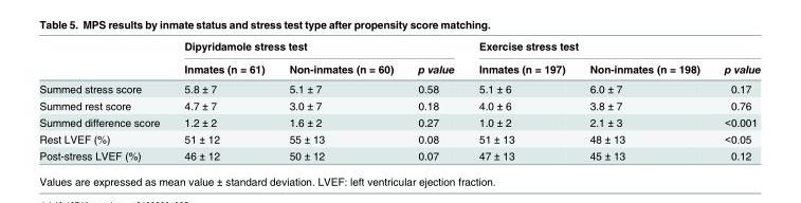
<table><thead><tr><td rowspan="2"></td><td colspan="3">Dipyridamole stress test</td><td colspan="3">Exercise stress test</td></tr><tr><td>Inmates (n = 61)</td><td>Non-inmates (n = 60)</td><td>p value</td><td>Inmates (n = 197)</td><td>Non-inmates (n = 198)</td><td>p value</td></tr></thead><tbody><tr><td>Summed stress score</td><td>5.8 ± 7</td><td>5.1 ± 7</td><td>0.58</td><td>5.1 ± 6</td><td>6.0 ± 7</td><td>0.17</td></tr><tr><td>Summed rest score</td><td>4.7 ± 7</td><td>3.0 ± 7</td><td>0.18</td><td>4.0 ± 6</td><td>3.8 ± 7</td><td>0.76</td></tr><tr><td>Summed difference score</td><td>1.2 ± 2</td><td>1.6 ± 2</td><td>0.27</td><td>1.0 ± 2</td><td>2.1 ± 3</td><td>&lt;0.001</td></tr><tr><td>Rest LVEF (%)</td><td>51 ± 12</td><td>55 ± 13</td><td>0.08</td><td>51 ± 13</td><td>48 ± 13</td><td>&lt;0.05</td></tr><tr><td>Post-stress LVEF (%)</td><td>46 ± 12</td><td>50 ± 12</td><td>0.07</td><td>47 ± 13</td><td>45 ± 13</td><td>0.12</td></tr></tbody></table>